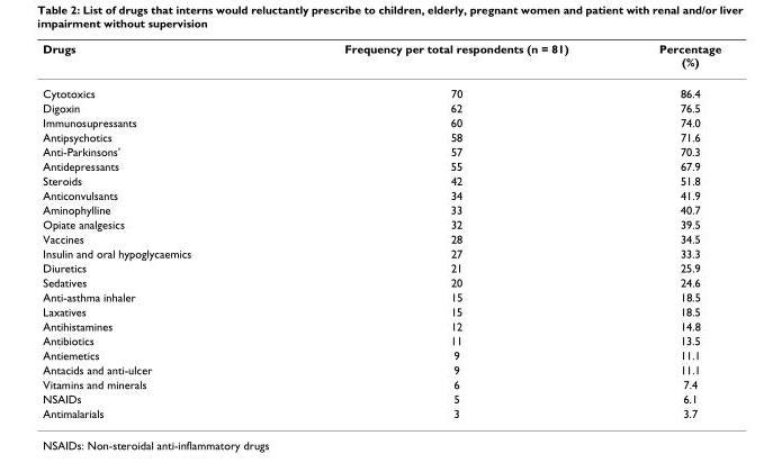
<table><thead><tr><td>Drugs</td><td>Frequency per total respondents (n = 81)</td><td>Percentage (%)</td></tr></thead><tbody><tr><td>Cytotoxics</td><td>70</td><td>86.4</td></tr><tr><td>Digoxin</td><td>62</td><td>76.5</td></tr><tr><td>Immunosupressants</td><td>60</td><td>74.0</td></tr><tr><td>Antipsychotics</td><td>58</td><td>71.6</td></tr><tr><td>Anti-Parkinsons&#x27;</td><td>57</td><td>70.3</td></tr><tr><td>Antidepressants</td><td>55</td><td>67.9</td></tr><tr><td>Steroids</td><td>42</td><td>51.8</td></tr><tr><td>Anticonvulsants</td><td>34</td><td>41.9</td></tr><tr><td>Aminophylline</td><td>33</td><td>40.7</td></tr><tr><td>Opiate analgesics</td><td>32</td><td>39.5</td></tr><tr><td>Vaccines</td><td>28</td><td>34.5</td></tr><tr><td>Insulin and oral hypoglycaemics</td><td>27</td><td>33.3</td></tr><tr><td>Diuretics</td><td>21</td><td>25.9</td></tr><tr><td>Sedatives</td><td>20</td><td>24.6</td></tr><tr><td>Anti-asthma inhaler</td><td>15</td><td>18.5</td></tr><tr><td>Laxatives</td><td>15</td><td>18.5</td></tr><tr><td>Antihistamines</td><td>12</td><td>14.8</td></tr><tr><td>Antibiotics</td><td>11</td><td>13.5</td></tr><tr><td>Antiemetics</td><td>9</td><td>11.1</td></tr><tr><td>Antacids and anti-ulcer</td><td>9</td><td>11.1</td></tr><tr><td>Vitamins and minerals</td><td>6</td><td>7.4</td></tr><tr><td>NSAIDs</td><td>5</td><td>6.1</td></tr><tr><td>Antimalarials</td><td>3</td><td>3.7</td></tr></tbody></table>